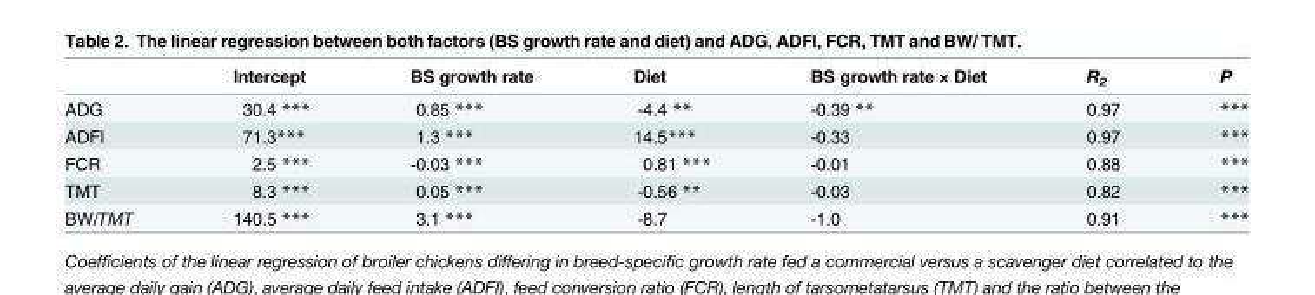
<table><thead><tr><td></td><td>Intercept</td><td>BS growth rate</td><td>Diet</td><td>BS growth rate × Diet</td><td>R<sup>2</sup></td><td>P</td></tr></thead><tbody><tr><td>ADG</td><td>30.4 ***</td><td>0.85 ***</td><td>-4.4 **</td><td>-0.39 **</td><td>0.97</td><td>***</td></tr><tr><td>ADFI</td><td>71.3***</td><td>1.3 ***</td><td>14.5***</td><td>-0.33</td><td>0.97</td><td>***</td></tr><tr><td>FCR</td><td>2.5 ***</td><td>-0.03 ***</td><td>0.81 ***</td><td>-0.01</td><td>0.88</td><td>***</td></tr><tr><td>TMT</td><td>8.3 ***</td><td>0.05 ***</td><td>-0.56 **</td><td>-0.03</td><td>0.82</td><td>***</td></tr><tr><td>BW/TMT</td><td>140.5 ***</td><td>3.1 ***</td><td>-8.7</td><td>-1.0</td><td>0.91</td><td>***</td></tr></tbody></table>